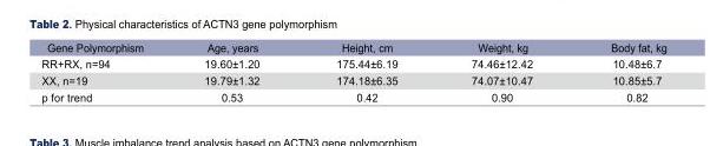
<table><thead><tr><td>Gene Polymorphism</td><td>Age, years</td><td>Height, cm</td><td>Weight, kg</td><td>Body fat, kg</td></tr></thead><tbody><tr><td>RR+RX, n=94</td><td>19.60±1.20</td><td>175.44±6.19</td><td>74.46±12.42</td><td>10.48±6.7</td></tr><tr><td>XX, n=19</td><td>19.79±1.32</td><td>174.18±6.35</td><td>74.07±10.47</td><td>10.85±5.7</td></tr><tr><td>p for trend</td><td>0.53</td><td>0.42</td><td>0.90</td><td>0.82</td></tr></tbody></table>